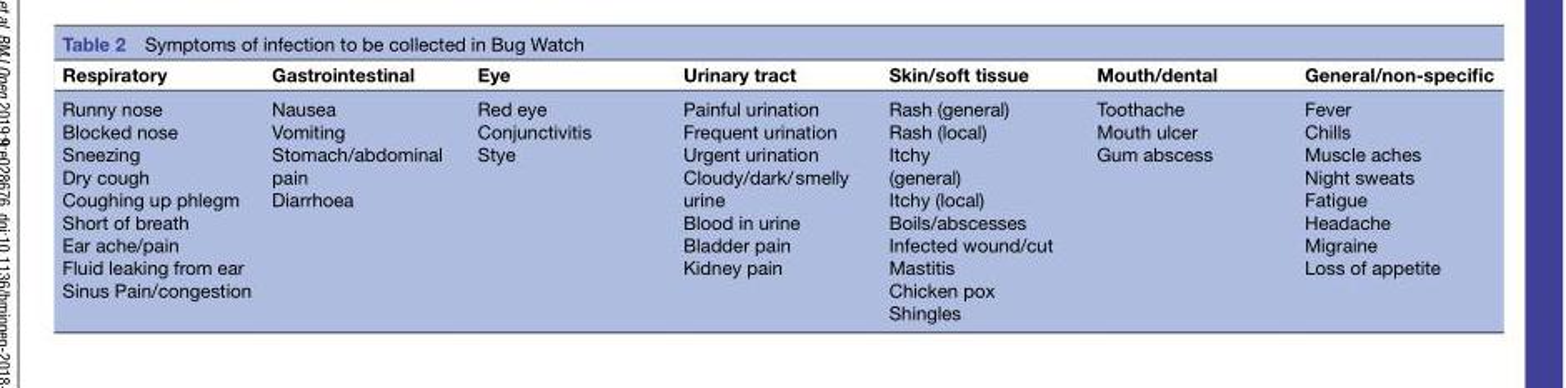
<table><thead><tr><td>Respiratory</td><td>Gastrointestinal</td><td>Eye</td><td>Urinary tract</td><td>Skin/soft tissue</td><td>Mouth/dental</td><td>General/non-specific</td></tr></thead><tbody><tr><td>Runny nose Blocked nose Sneezing Dry cough Coughing up phlegm Short of breath Ear ache/pain Fluid leaking from ear Sinus Pain/congestion</td><td>Nausea Vomiting Stomach/abdominal pain Diarrhoea</td><td>Red eye Conjunctivitis Stye</td><td>Painful urination Frequent urination Urgent urination Cloudy/dark/ smelly urine Blood in urine Bladder pain Kidney pain</td><td>Rash (general) Rash (local) Itchy (general) Itchy (local) Boils/abscesses Infected wound/cut Mastitis Chicken pox Shingles</td><td>Toothache Mouth ulcer Gum abscess</td><td>Fever Chills Muscle aches Night sweats Fatigue Headache Migraine Loss of appetite</td></tr></tbody></table>